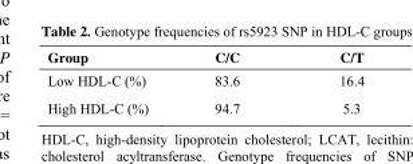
<table><thead><tr><td>Group</td><td>C/C</td><td>C/T</td></tr></thead><tbody><tr><td>Low HDL-C (%)</td><td>83.6</td><td>16.4</td></tr><tr><td>High HDL-C (%)</td><td>94.7</td><td>5.3</td></tr></tbody></table>